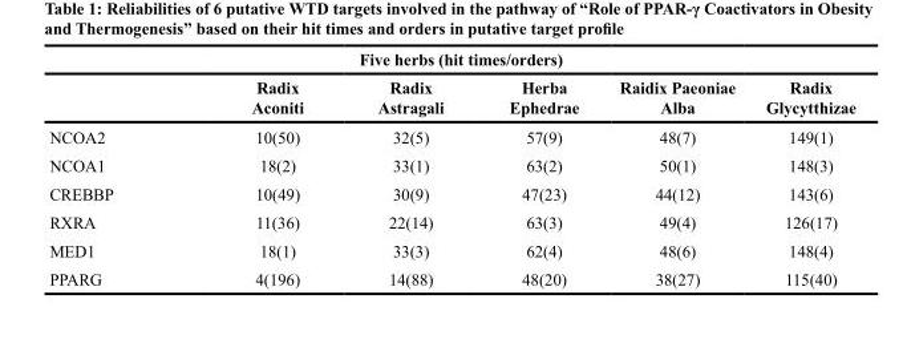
<table><thead><tr><td colspan="6">Five herbs (hit times/orders)</td></tr><tr><td></td><td>Radix Aconiti</td><td>Radix Astragali</td><td>Herba Ephedrae</td><td>Raidix Paeoniae Alba</td><td>Radix Glycytthizae</td></tr></thead><tbody><tr><td>NCOA2</td><td>10(50)</td><td>32(5)</td><td>57(9)</td><td>48(7)</td><td>149(1)</td></tr><tr><td>NCOA1</td><td>18(2)</td><td>33(1)</td><td>63(2)</td><td>50(1)</td><td>148(3)</td></tr><tr><td>CREBBP</td><td>10(49)</td><td>30(9)</td><td>47(23)</td><td>44(12)</td><td>143(6)</td></tr><tr><td>RXRA</td><td>11(36)</td><td>22(14)</td><td>63(3)</td><td>49(4)</td><td>126(17)</td></tr><tr><td>MED1</td><td>18(1)</td><td>33(3)</td><td>62(4)</td><td>48(6)</td><td>148(4)</td></tr><tr><td>PPARG</td><td>4(196)</td><td>14(88)</td><td>48(20)</td><td>38(27)</td><td>115(40)</td></tr></tbody></table>